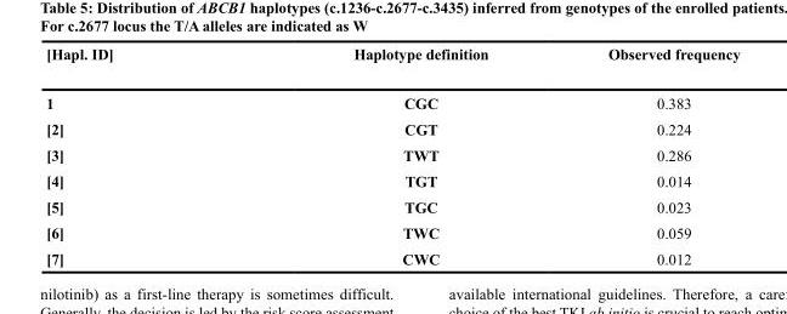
<table><thead><tr><td>[Hapl. ID]</td><td>Haplotype definition</td><td>Observed frequency</td></tr></thead><tbody><tr><td>1</td><td>CGC</td><td>0.383</td></tr><tr><td>[2]</td><td>CGT</td><td>0.224</td></tr><tr><td>[3]</td><td>TWT</td><td>0.286</td></tr><tr><td>[4]</td><td>TGT</td><td>0.014</td></tr><tr><td>[5]</td><td>TGC</td><td>0.023</td></tr><tr><td>[6]</td><td>TWC</td><td>0.059</td></tr><tr><td>[7]</td><td>CWC</td><td>0.012</td></tr></tbody></table>